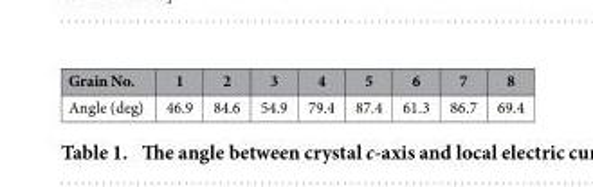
<table><thead><tr><td>Grain No.</td><td>1</td><td>2</td><td>3</td><td>4</td><td>5</td><td>6</td><td>7</td><td>8</td></tr></thead><tbody><tr><td>Angle (deg)</td><td>46.9</td><td>84.6</td><td>54.9</td><td>79.4</td><td>87.4</td><td>61.3</td><td>86.7</td><td>69.4</td></tr></tbody></table>